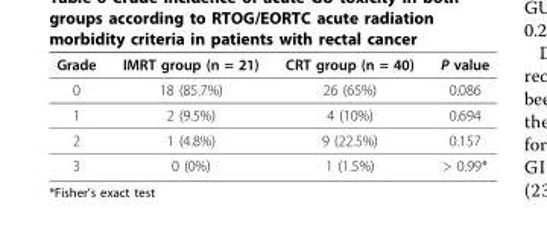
<table><thead><tr><td>Grade</td><td>IMRT group (n = 21)</td><td>CRT group (n = 40)</td><td>P value</td></tr></thead><tbody><tr><td>0</td><td>18 (85.7%)</td><td>26 (65%)</td><td>0.086</td></tr><tr><td>1</td><td>2 (9.5%)</td><td>4 (10%)</td><td>0.694</td></tr><tr><td>2</td><td>1 (4.8%)</td><td>9 (22.5%)</td><td>0.157</td></tr><tr><td>3</td><td>0 (0%)</td><td>1 (1.5%)</td><td>&gt; 0.99*</td></tr></tbody></table>